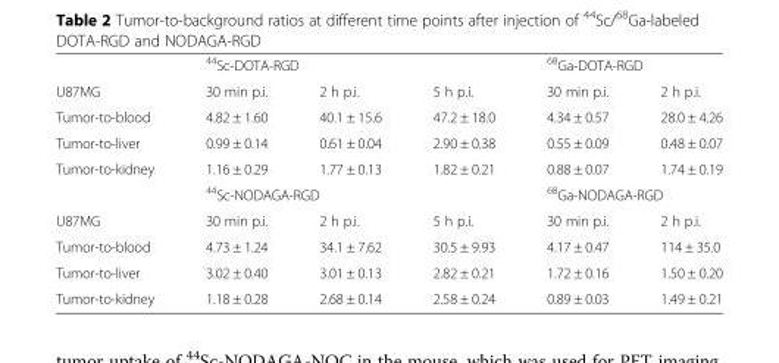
<table><thead><tr><td rowspan="2">U87MG</td><td colspan="3"><sup>44</sup>Sc-DOTA-RGD</td><td colspan="2"><sup>68</sup>Ga-DOTA-RGD</td></tr><tr><td>30 min p.i.</td><td>2 h p.i.</td><td>5 h p.i.</td><td>30 min p.i.</td><td>2 h p.i.</td></tr></thead><tbody><tr><td>Tumor-to-blood</td><td>4.82 ± 1.60</td><td>40.1 ± 15.6</td><td>47.2 ± 18.0</td><td>4.34 ± 0.57</td><td>28.0 ± 4.26</td></tr><tr><td>Tumor-to-liver</td><td>0.99 ± 0.14</td><td>0.61 ± 0.04</td><td>2.90 ± 0.38</td><td>0.55 ± 0.09</td><td>0.48 ± 0.07</td></tr><tr><td rowspan="2">Tumor-to-kidney</td><td>1.16 ± 0.29</td><td>1.77 ± 0.13</td><td>1.82 ± 0.21</td><td>0.88 ± 0.07</td><td>1.74 ± 0.19</td></tr><tr><td colspan="3"><sup>44</sup>Sc-NODAGA-RGD</td><td colspan="2"><sup>68</sup>Ga-NODAGA-RGD</td></tr><tr><td>U87MG</td><td>30 min p.i.</td><td>2 h p.i.</td><td>5 h p.i.</td><td>30 min p.i.</td><td>2 h p.i.</td></tr><tr><td>Tumor-to-blood</td><td>4.73 ± 1.24</td><td>34.1 ± 7.62</td><td>30.5 ± 9.93</td><td>4.17 ± 0.47</td><td>114 ± 35.0</td></tr><tr><td>Tumor-to-liver</td><td>3.02 ± 0.40</td><td>3.01 ± 0.13</td><td>2.82 ± 0.21</td><td>1.72 ± 0.16</td><td>1.50 ± 0.20</td></tr><tr><td>Tumor-to-kidney</td><td>1.18 ± 0.28</td><td>2.68 ± 0.14</td><td>2.58 ± 0.24</td><td>0.89 ± 0.03</td><td>1.49 ± 0.21</td></tr></tbody></table>